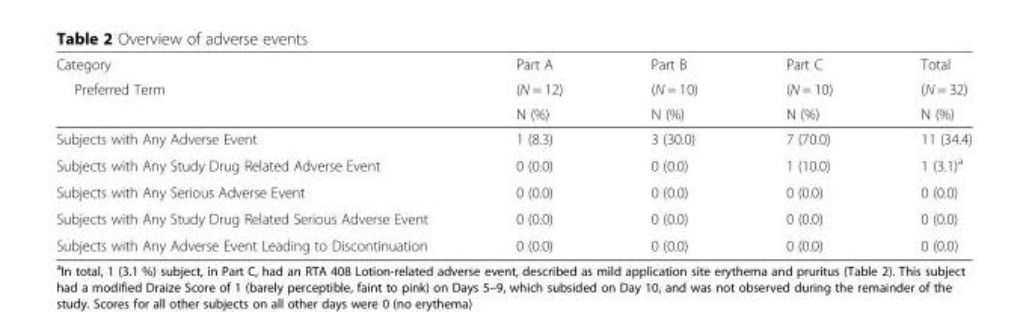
<table><thead><tr><td rowspan="3">Category Preferred Term</td><td rowspan="3">Part A (N = 12) N (%)</td><td rowspan="3">Part B (N = 10) N (%)</td><td rowspan="3">Part C (N = 10) N (%)</td><td rowspan="3">Total (N = 32) N (%)</td></tr><tr></tr><tr></tr></thead><tbody><tr><td>Subjects with Any Adverse Event</td><td>1 (8.3)</td><td>3 (30.0)</td><td>7 (70.0)</td><td>11 (34.4)</td></tr><tr><td>Subjects with Any Study Drug Related Adverse Event</td><td>0 (0.0)</td><td>0 (0.0)</td><td>1 (10.0)</td><td>1 (3.1)<sup>a</sup></td></tr><tr><td>Subjects with Any Serious Adverse Event</td><td>0 (0.0)</td><td>0 (0.0)</td><td>0 (0.0)</td><td>0 (0.0)</td></tr><tr><td>Subjects with Any Study Drug Related Serious Adverse Event</td><td>0 (0.0)</td><td>0 (0.0)</td><td>0 (0.0)</td><td>0 (0.0)</td></tr><tr><td>Subjects with Any Adverse Event Leading to Discontinuation</td><td>0 (0.0)</td><td>0 (0.0)</td><td>0 (0.0)</td><td>0 (0.0)</td></tr></tbody></table>